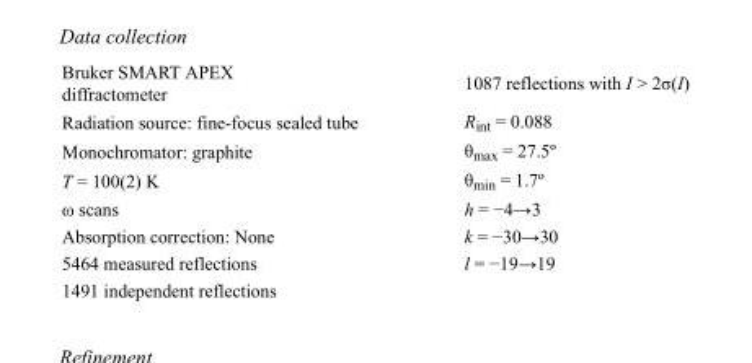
<table><tbody><tr><td>Bruker SMART APEX diffractometer</td><td>1087 reflections with I &gt; 2σ(I)</td></tr><tr><td>Radiation source: fine-focus sealed tube</td><td>R<sub>int</sub> = 0.088</td></tr><tr><td>Monochromator: graphite</td><td>θ<sub>max</sub> = 27.5º</td></tr><tr><td>T = 100(2) K</td><td>θ<sub>min</sub> = 1.7º</td></tr><tr><td>ω scans</td><td>h = −4→3</td></tr><tr><td>Absorption correction: None</td><td>k = −30→30</td></tr><tr><td>5464 measured reflections</td><td>l = −19→19</td></tr><tr><td>1491 independent reflections</td><td></td></tr></tbody></table>